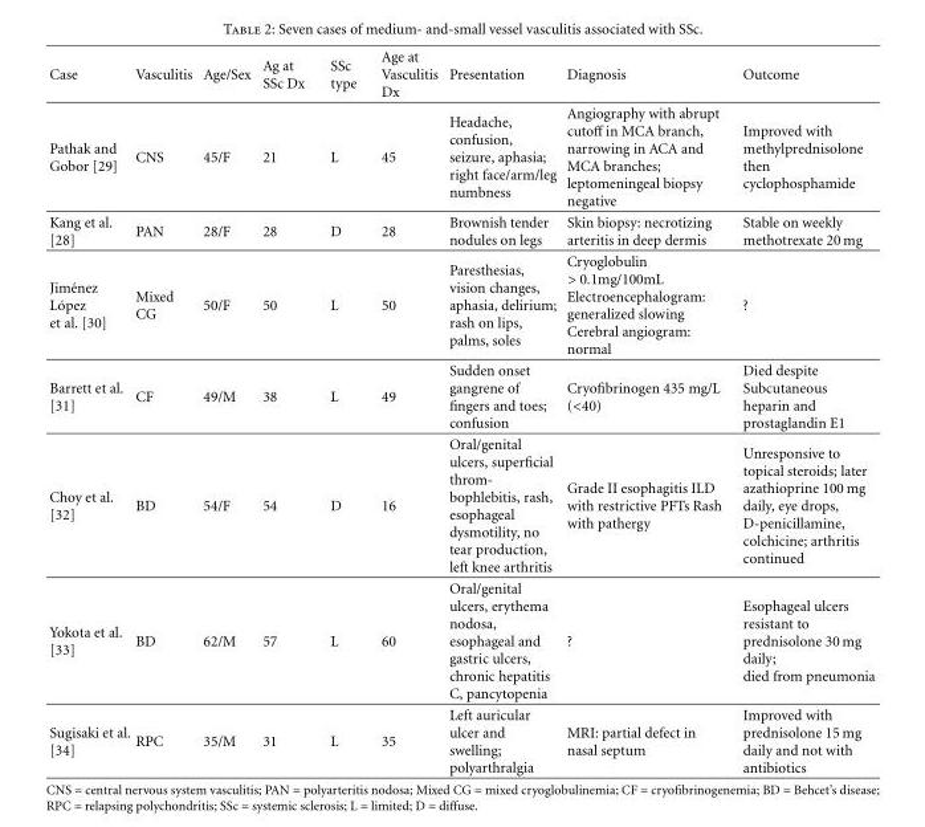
<table><thead><tr><td>Case</td><td>Vasculitis</td><td>Age/Sex</td><td>Ag at SSc Dx</td><td>SSc type</td><td>Age at Vasculitis Dx</td><td>Presentation</td><td>Diagnosis</td><td>Outcome</td></tr></thead><tbody><tr><td>Pathak and Gobor [29]</td><td>CNS</td><td>45/F</td><td>21</td><td>L</td><td>45</td><td>Headache, confusion, seizure, aphasia; right face/arm/leg numbness</td><td>Angiography with abrupt cutoff in MCA branch, narrowing in ACA and MCA branches; leptomeningeal biopsy negative</td><td>Improved with methylprednisolone then cyclophosphamide</td></tr><tr><td>Kang et al. [28]</td><td>PAN</td><td>28/F</td><td>28</td><td>D</td><td>28</td><td>Brownish tender nodules on legs</td><td>Skin biopsy: necrotizing arteritis in deep dermis</td><td>Stable on weekly methotrexate 20 mg</td></tr><tr><td>Jim´enez L´opez et al. [30]</td><td>Mixed CG</td><td>50/F</td><td>50</td><td>L</td><td>50</td><td>Paresthesias, vision changes, aphasia, delirium; rash on lips, palms, soles</td><td>Cryoglobulin &gt; 0.1mg/100mL Electroencephalogram: generalized slowing Cerebral angiogram: normal</td><td>?</td></tr><tr><td>Barrett et al. [31]</td><td>CF</td><td>49/M</td><td>38</td><td>L</td><td>49</td><td>Sudden onset gangrene of fingers and toes; confusion</td><td>Cryofibrinogen 435 mg/L (&lt;40)</td><td>Died despite Subcutaneous heparin and prostaglandin E1</td></tr><tr><td>Choy et al. [32]</td><td>BD</td><td>54/F</td><td>54</td><td>D</td><td>16</td><td>Oral/genital ulcers, superficial throm- bophlebitis, rash, esophageal dysmotility, no tear production, left knee arthritis</td><td>Grade II esophagitis ILD with restrictive PFTs Rash with pathergy</td><td>Unresponsive to topical steroids; later azathioprine 100 mg daily, eye drops, D-penicillamine, colchicine; arthritis continued</td></tr><tr><td>Yokota et al. [33]</td><td>BD</td><td>62/M</td><td>57</td><td>L</td><td>60</td><td>Oral/genital ulcers, erythema nodosa, esophageal and gastric ulcers, chronic hepatitis C, pancytopenia</td><td>?</td><td>Esophageal ulcers resistant to prednisolone 30 mg daily; died from pneumonia</td></tr><tr><td>Sugisaki et al. [34]</td><td>RPC</td><td>35/M</td><td>31</td><td>L</td><td>35</td><td>Left auricular ulcer and swelling; polyarthralgia</td><td>MRI: partial defect in nasal septum</td><td>Improved with prednisolone 15 mg daily and not with antibiotics</td></tr></tbody></table>